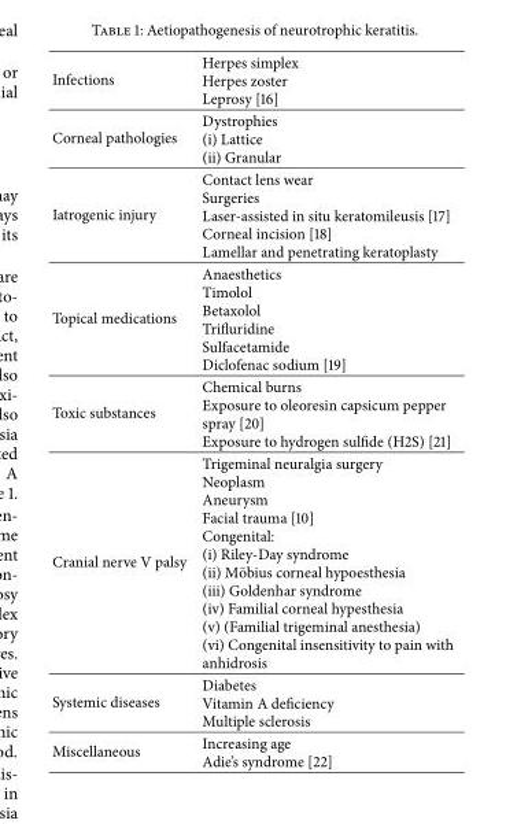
<table><tbody><tr><td>Infections</td><td>Herpes simplex Herpes zoster Leprosy [16]</td></tr><tr><td>Corneal pathologies</td><td>Dystrophies (i) Lattice (ii) Granular</td></tr><tr><td>Iatrogenic injury</td><td>Contact lens wear Surgeries Laser-assisted in situ keratomileusis [17] Corneal incision [18] Lamellar and penetrating keratoplasty</td></tr><tr><td>Topical medications</td><td>Anaesthetics Timolol Betaxolol Trifluridine Sulfacetamide Diclofenac sodium [19]</td></tr><tr><td>Toxic substances</td><td>Chemical burns Exposure to oleoresin capsicum pepper spray [20] Exposure to hydrogen sulfide (H2S) [21]</td></tr><tr><td>Cranial nerve V palsy</td><td>Trigeminal neuralgia surgery Neoplasm Aneurysm Facial trauma [10] Congenital: (i) Riley-Day syndrome (ii) M¨obius corneal hypoesthesia (iii) Goldenhar syndrome (iv) Familial corneal hypesthesia (v) (Familial trigeminal anesthesia) (vi) Congenital insensitivity to pain with anhidrosis</td></tr><tr><td>Systemic diseases</td><td>Diabetes Vitamin A deficiency Multiple sclerosis</td></tr><tr><td>Miscellaneous</td><td>Increasing age Adie’s syndrome [22]</td></tr></tbody></table>